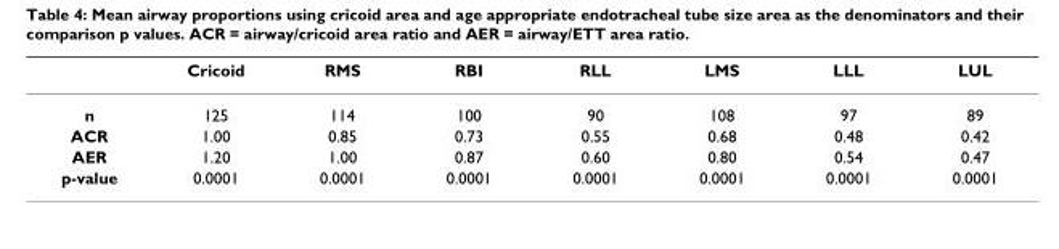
<table><thead><tr><td></td><td>Cricoid</td><td>RMS</td><td>RBI</td><td>RLL</td><td>LMS</td><td>LLL</td><td>LUL</td></tr></thead><tbody><tr><td>n</td><td>125</td><td>114</td><td>100</td><td>90</td><td>108</td><td>97</td><td>89</td></tr><tr><td>ACR</td><td>1.00</td><td>0.85</td><td>0.73</td><td>0.55</td><td>0.68</td><td>0.48</td><td>0.42</td></tr><tr><td>AER</td><td>1.20</td><td>1.00</td><td>0.87</td><td>0.60</td><td>0.80</td><td>0.54</td><td>0.47</td></tr><tr><td>p-value</td><td>0.0001</td><td>0.0001</td><td>0.0001</td><td>0.0001</td><td>0.0001</td><td>0.0001</td><td>0.0001</td></tr></tbody></table>